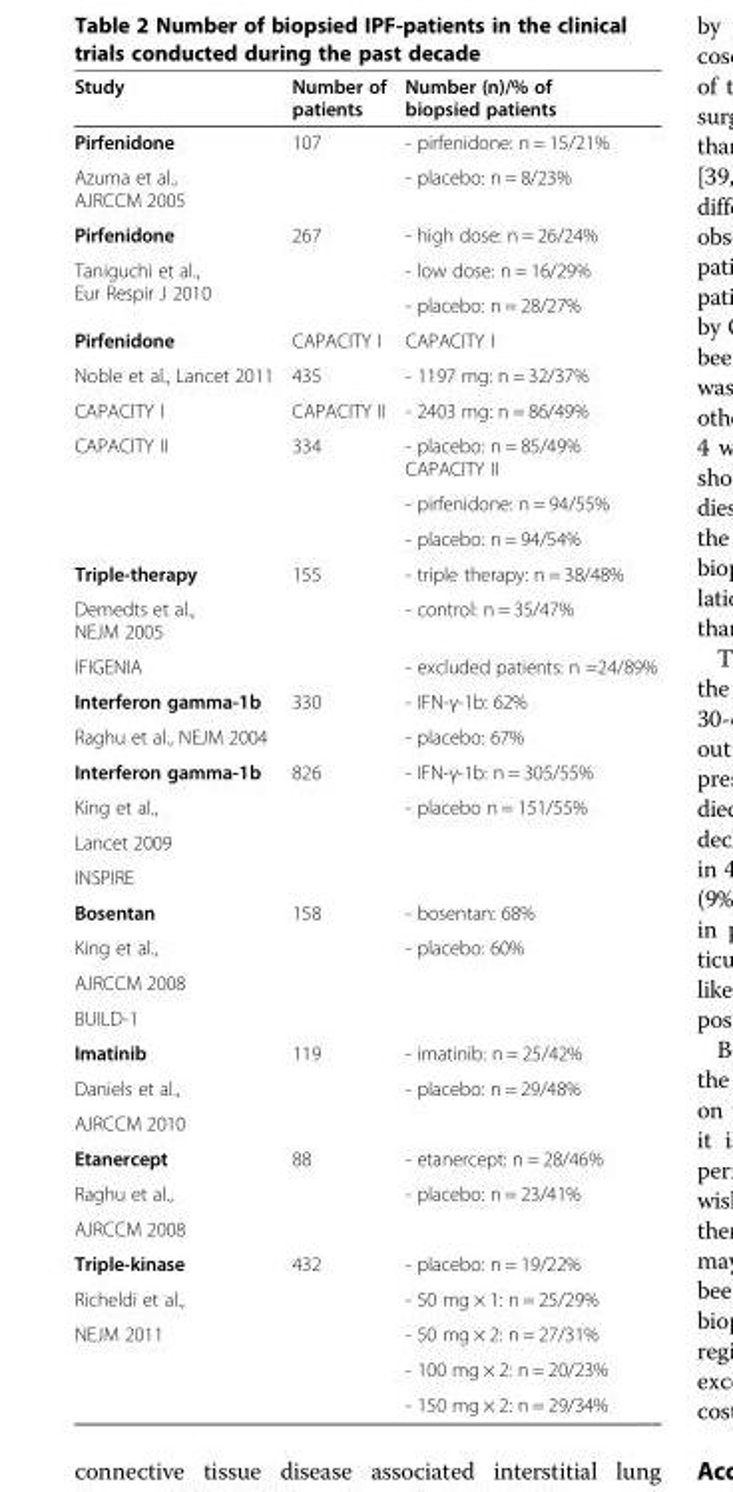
<table><thead><tr><td>Study</td><td>Number of patients</td><td>Number (n)/% of biopsied patients</td></tr></thead><tbody><tr><td>Pirfenidone</td><td rowspan="2">107</td><td>- pirfenidone: n = 15/21%</td></tr><tr><td>Azuma et al., AJRCCM 2005</td><td>- placebo: n = 8/23%</td></tr><tr><td>Pirfenidone</td><td rowspan="3">267</td><td>- high dose: n = 26/24%</td></tr><tr><td rowspan="2">Taniguchi et al., Eur Respir J 2010</td><td>- low dose: n = 16/29%</td></tr><tr><td>- placebo: n = 28/27%</td></tr><tr><td>Pirfenidone</td><td>CAPACITY I</td><td>CAPACITY I</td></tr><tr><td>Noble et al., Lancet 2011</td><td>435</td><td>- 1197 mg: n = 32/37%</td></tr><tr><td>CAPACITY I</td><td>CAPACITY II</td><td>- 2403 mg: n = 86/49%</td></tr><tr><td rowspan="3">CAPACITY II</td><td rowspan="3">334</td><td>- placebo: n = 85/49% CAPACITY II</td></tr><tr><td>- pirfenidone: n = 94/55%</td></tr><tr><td>- placebo: n = 94/54%</td></tr><tr><td>Triple-therapy</td><td rowspan="3">155</td><td>- triple therapy: n = 38/48%</td></tr><tr><td>Demedts et al., NEJM 2005</td><td>- control: n = 35/47%</td></tr><tr><td>IFIGENIA</td><td>- excluded patients: n =24/89%</td></tr><tr><td>Interferon gamma-1b</td><td rowspan="2">330</td><td>- IFN-γ-1b: 62%</td></tr><tr><td>Raghu et al., NEJM 2004</td><td>- placebo: 67%</td></tr><tr><td>Interferon gamma-1b</td><td rowspan="4">826</td><td>- IFN-γ-1b: n = 305/55%</td></tr><tr><td>King et al.,</td><td rowspan="3">- placebo n = 151/55%</td></tr><tr><td>Lancet 2009</td></tr><tr><td>INSPIRE</td></tr><tr><td>Bosentan</td><td rowspan="4">158</td><td>- bosentan: 68%</td></tr><tr><td>King et al.,</td><td rowspan="3">- placebo: 60%</td></tr><tr><td>AJRCCM 2008</td></tr><tr><td>BUILD-1</td></tr><tr><td>Imatinib</td><td rowspan="3">119</td><td>- imatinib: n = 25/42%</td></tr><tr><td>Daniels et al.,</td><td rowspan="2">- placebo: n = 29/48%</td></tr><tr><td>AJRCCM 2010</td></tr><tr><td>Etanercept</td><td rowspan="3">88</td><td>- etanercept: n = 28/46%</td></tr><tr><td>Raghu et al.,</td><td rowspan="2">- placebo: n = 23/41%</td></tr><tr><td>AJRCCM 2008</td></tr><tr><td>Triple-kinase</td><td>432</td><td>- placebo: n = 19/22%</td></tr><tr><td>Richeldi et al.,</td><td></td><td>- 50 mg × 1: n = 25/29%</td></tr><tr><td rowspan="3">NEJM 2011</td><td></td><td>- 50 mg × 2: n = 27/31%</td></tr><tr><td></td><td>- 100 mg × 2: n = 20/23%</td></tr><tr><td></td><td>- 150 mg × 2: n = 29/34%</td></tr></tbody></table>